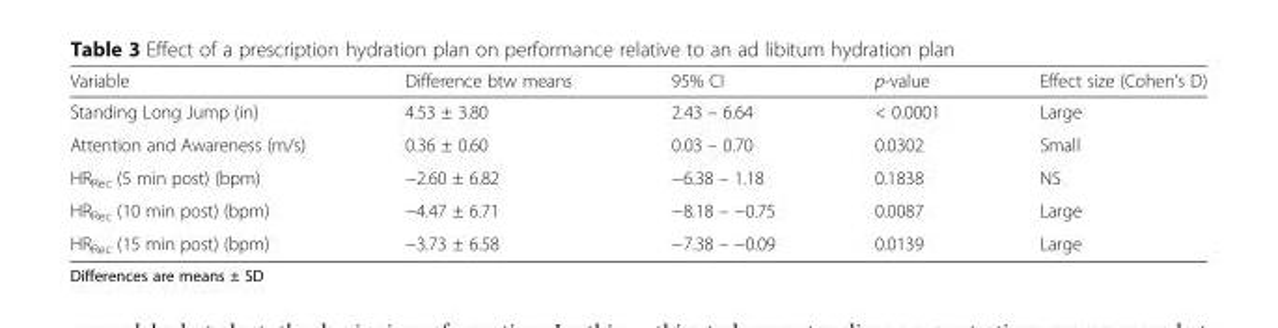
<table><thead><tr><td>Variable</td><td>Difference btw means</td><td>95% CI</td><td>p-value</td><td>Effect size (Cohen’s D)</td></tr></thead><tbody><tr><td>Standing Long Jump (in)</td><td>4.53 ± 3.80</td><td>2.43 – 6.64</td><td>&lt; 0.0001</td><td>Large</td></tr><tr><td>Attention and Awareness (m/s)</td><td>0.36 ± 0.60</td><td>0.03 – 0.70</td><td>0.0302</td><td>Small</td></tr><tr><td>HR<sub>Rec</sub> (5 min post) (bpm)</td><td>−2.60 ± 6.82</td><td>−6.38 – 1.18</td><td>0.1838</td><td>NS</td></tr><tr><td>HR<sub>Rec</sub> (10 min post) (bpm)</td><td>−4.47 ± 6.71</td><td>−8.18 – −0.75</td><td>0.0087</td><td>Large</td></tr><tr><td>HR<sub>Rec</sub> (15 min post) (bpm)</td><td>−3.73 ± 6.58</td><td>−7.38 – −0.09</td><td>0.0139</td><td>Large</td></tr></tbody></table>